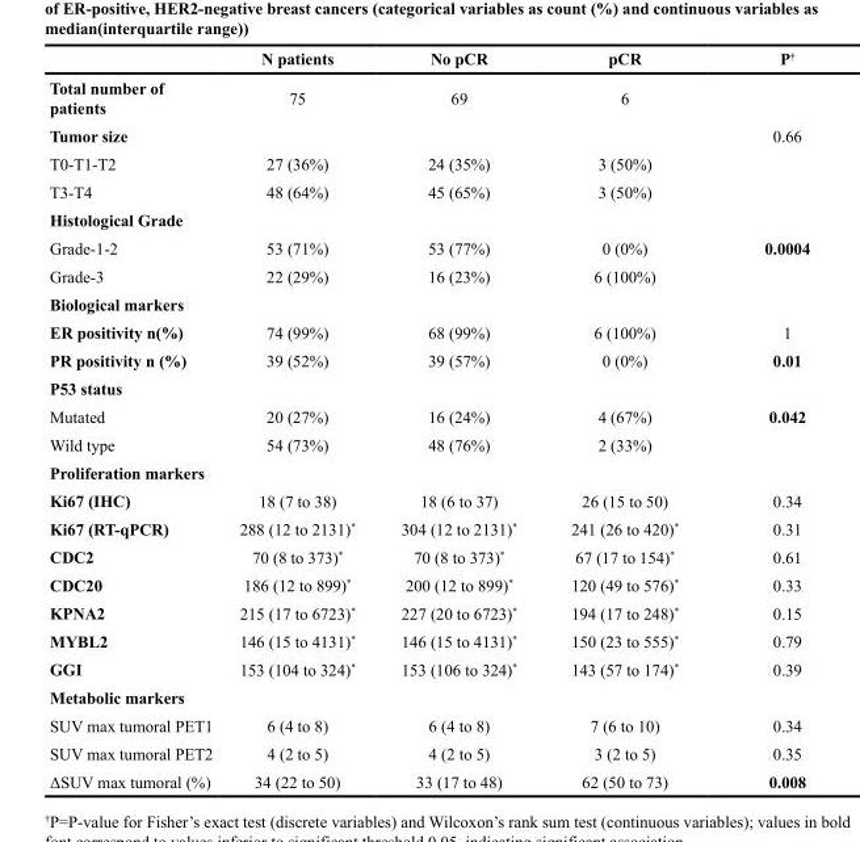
<table><thead><tr><td></td><td>N patients</td><td>No pCR</td><td>pCR</td><td>P<sup>†</sup></td></tr></thead><tbody><tr><td>Total number of patients</td><td>75</td><td>69</td><td>6</td><td></td></tr><tr><td>Tumor size</td><td></td><td></td><td></td><td>0.66</td></tr><tr><td>T0-T1-T2</td><td>27 (36%)</td><td>24 (35%)</td><td>3 (50%)</td><td></td></tr><tr><td>T3-T4</td><td>48 (64%)</td><td>45 (65%)</td><td>3 (50%)</td><td></td></tr><tr><td colspan="5">Histological Grade</td></tr><tr><td>Grade-1-2</td><td>53 (71%)</td><td>53 (77%)</td><td>0 (0%)</td><td>0.0004</td></tr><tr><td>Grade-3</td><td>22 (29%)</td><td>16 (23%)</td><td>6 (100%)</td><td></td></tr><tr><td colspan="5">Biological markers</td></tr><tr><td>ER positivity n(%)</td><td>74 (99%)</td><td>68 (99%)</td><td>6 (100%)</td><td>1</td></tr><tr><td>PR positivity n (%)</td><td>39 (52%)</td><td>39 (57%)</td><td>0 (0%)</td><td>0.01</td></tr><tr><td colspan="5">P53 status</td></tr><tr><td>Mutated</td><td>20 (27%)</td><td>16 (24%)</td><td>4 (67%)</td><td>0.042</td></tr><tr><td>Wild type</td><td>54 (73%)</td><td>48 (76%)</td><td>2 (33%)</td><td></td></tr><tr><td colspan="5">Proliferation markers</td></tr><tr><td>Ki67 (IHC)</td><td>18 (7 to 38)</td><td>18 (6 to 37)</td><td>26 (15 to 50)</td><td>0.34</td></tr><tr><td>Ki67 (RT-qPCR)</td><td>288 (12 to 2131)*</td><td>304 (12 to 2131)*</td><td>241 (26 to 420)*</td><td>0.31</td></tr><tr><td>CDC2</td><td>70 (8 to 373)*</td><td>70 (8 to 373)*</td><td>67 (17 to 154)*</td><td>0.61</td></tr><tr><td>CDC20</td><td>186 (12 to 899)*</td><td>200 (12 to 899)*</td><td>120 (49 to 576)*</td><td>0.33</td></tr><tr><td>KPNA2</td><td>215 (17 to 6723)*</td><td>227 (20 to 6723)*</td><td>194 (17 to 248)*</td><td>0.15</td></tr><tr><td>MYBL2</td><td>146 (15 to 4131)*</td><td>146 (15 to 4131)*</td><td>150 (23 to 555)*</td><td>0.79</td></tr><tr><td>GGI</td><td>153 (104 to 324)*</td><td>153 (106 to 324)*</td><td>143 (57 to 174)*</td><td>0.39</td></tr><tr><td colspan="5">Metabolic markers</td></tr><tr><td>SUV max tumoral PET1</td><td>6 (4 to 8)</td><td>6 (4 to 8)</td><td>7 (6 to 10)</td><td>0.34</td></tr><tr><td>SUV max tumoral PET2</td><td>4 (2 to 5)</td><td>4 (2 to 5)</td><td>3 (2 to 5)</td><td>0.35</td></tr><tr><td>ΔSUV max tumoral (%)</td><td>34 (22 to 50)</td><td>33 (17 to 48)</td><td>62 (50 to 73)</td><td>0.008</td></tr></tbody></table>